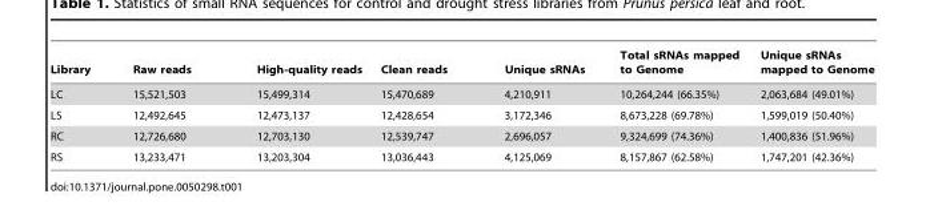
<table><thead><tr><td>Library</td><td>Raw reads</td><td>High-quality reads</td><td>Clean reads</td><td>Unique sRNAs</td><td>Total sRNAs mapped to Genome</td><td>Unique sRNAs mapped to Genome</td></tr></thead><tbody><tr><td>LC</td><td>15,521,503</td><td>15,499,314</td><td>15,470,689</td><td>4,210,911</td><td>10,264,244 (66.35%)</td><td>2,063,684 (49.01%)</td></tr><tr><td>LS</td><td>12,492,645</td><td>12,473,137</td><td>12,428,654</td><td>3,172,346</td><td>8,673,228 (69.78%)</td><td>1,599,019 (50.40%)</td></tr><tr><td>RC</td><td>12,726,680</td><td>12,703,130</td><td>12,539,747</td><td>2,696,057</td><td>9,324,699 (74.36%)</td><td>1,400,836 (51.96%)</td></tr><tr><td>RS</td><td>13,233,471</td><td>13,203,304</td><td>13,036,443</td><td>4,125,069</td><td>8,157,867 (62.58%)</td><td>1,747,201 (42.36%)</td></tr></tbody></table>